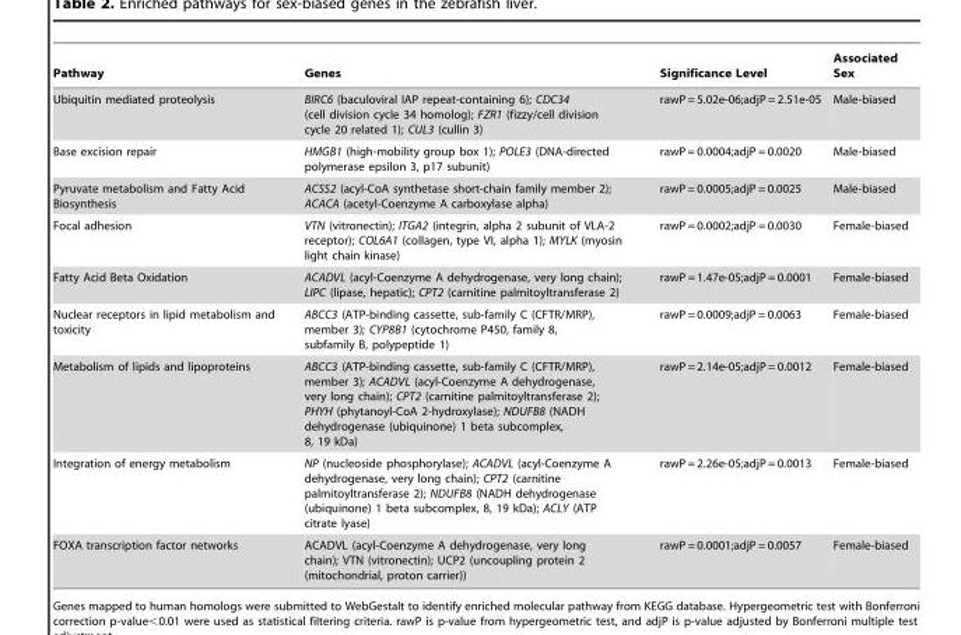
<table><thead><tr><td>Pathway</td><td>Genes</td><td>Significance Level</td><td>Associated Sex</td></tr></thead><tbody><tr><td>Ubiquitin mediated proteolysis</td><td>BIRC6 (baculoviral IAP repeat-containing 6); CDC34 (cell division cycle 34 homolog); FZR1 (fizzy/cell division cycle 20 related 1); CUL3 (cullin 3)</td><td>rawP = 5.02e-06;adjP = 2.51e-05</td><td>Male-biased</td></tr><tr><td>Base excision repair</td><td>HMGB1 (high-mobility group box 1); POLE3 (DNA-directed polymerase epsilon 3, p17 subunit)</td><td>rawP = 0.0004;adjP = 0.0020</td><td>Male-biased</td></tr><tr><td>Pyruvate metabolism and Fatty Acid Biosynthesis</td><td>ACSS2 (acyl-CoA synthetase short-chain family member 2); ACACA (acetyl-Coenzyme A carboxylase alpha)</td><td>rawP = 0.0005;adjP = 0.0025</td><td>Male-biased</td></tr><tr><td>Focal adhesion</td><td>VTN (vitronectin); ITGA2 (integrin, alpha 2 subunit of VLA-2 receptor); COL6A1 (collagen, type VI, alpha 1); MYLK (myosin light chain kinase)</td><td>rawP = 0.0002;adjP = 0.0030</td><td>Female-biased</td></tr><tr><td>Fatty Acid Beta Oxidation</td><td>ACADVL (acyl-Coenzyme A dehydrogenase, very long chain); LIPC (lipase, hepatic); CPT2 (carnitine palmitoyltransferase 2)</td><td>rawP = 1.47e-05;adjP = 0.0001</td><td>Female-biased</td></tr><tr><td>Nuclear receptors in lipid metabolism and toxicity</td><td>ABCC3 (ATP-binding cassette, sub-family C (CFTR/MRP), member 3); CYP8B1 (cytochrome P450, family 8, subfamily B, polypeptide 1)</td><td>rawP = 0.0009;adjP = 0.0063</td><td>Female-biased</td></tr><tr><td>Metabolism of lipids and lipoproteins</td><td>ABCC3 (ATP-binding cassette, sub-family C (CFTR/MRP), member 3); ACADVL (acyl-Coenzyme A dehydrogenase, very long chain); CPT2 (carnitine palmitoyltransferase 2); PHYH (phytanoyl-CoA 2-hydroxylase); NDUFB8 (NADH dehydrogenase (ubiquinone) 1 beta subcomplex, 8, 19 kDa)</td><td>rawP = 2.14e-05;adjP = 0.0012</td><td>Female-biased</td></tr><tr><td>Integration of energy metabolism</td><td>NP (nucleoside phosphorylase); ACADVL (acyl-Coenzyme A dehydrogenase, very long chain); CPT2 (carnitine palmitoyltransferase 2); NDUFB8 (NADH dehydrogenase (ubiquinone) 1 beta subcomplex, 8, 19 kDa); ACLY (ATP citrate lyase)</td><td>rawP = 2.26e-05;adjP = 0.0013</td><td>Female-biased</td></tr><tr><td>FOXA transcription factor networks</td><td>ACADVL (acyl-Coenzyme A dehydrogenase, very long chain); VTN (vitronectin); UCP2 (uncoupling protein 2 (mitochondrial, proton carrier))</td><td>rawP = 0.0001;adjP = 0.0057</td><td>Female-biased</td></tr></tbody></table>